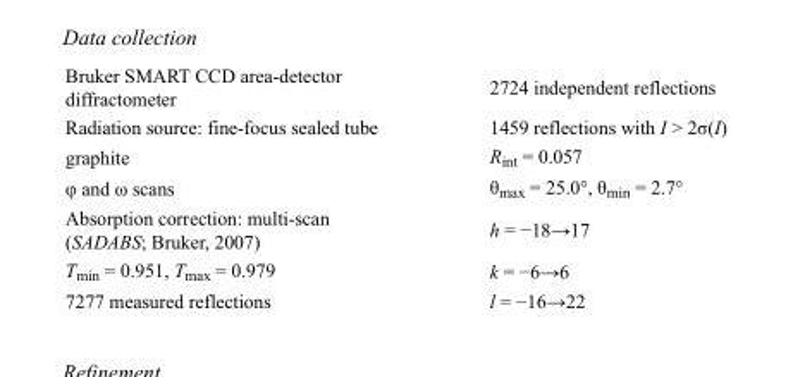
<table><tbody><tr><td>Bruker SMART CCD area-detector diffractometer</td><td>2724 independent reflections</td></tr><tr><td>Radiation source: fine-focus sealed tube</td><td>1459 reflections with I &gt; 2σ(I)</td></tr><tr><td>graphite</td><td>R<sub>int</sub> = 0.057</td></tr><tr><td>φ and ω scans</td><td>θ<sub>max</sub> = 25.0°, θ<sub>min</sub> = 2.7°</td></tr><tr><td>Absorption correction: multi-scan (SADABS; Bruker, 2007)</td><td>h = −18→17</td></tr><tr><td>T<sub>min</sub> = 0.951, T<sub>max</sub> = 0.979</td><td>k = −6→6</td></tr><tr><td>7277 measured reflections</td><td>l = −16→22</td></tr></tbody></table>